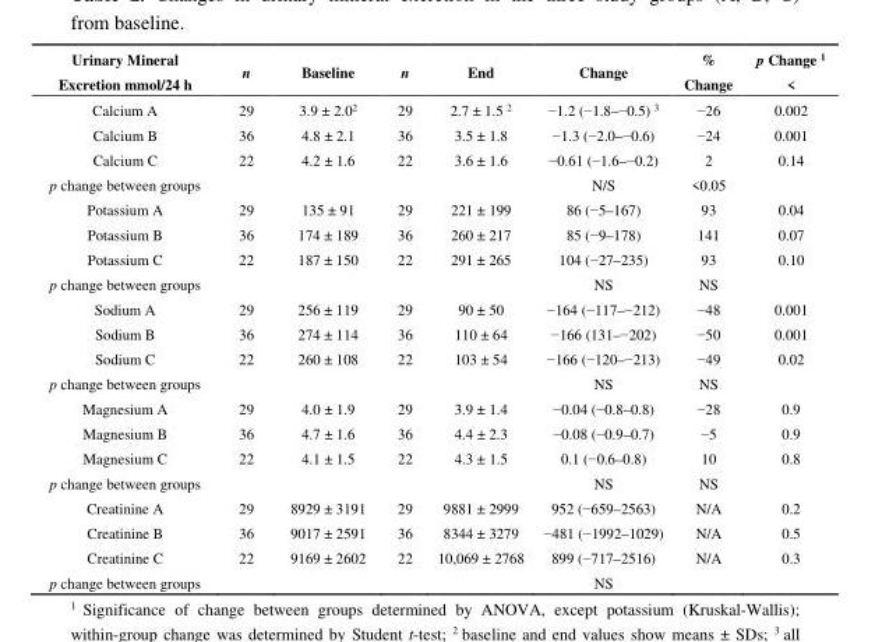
<table><thead><tr><td>Urinary Mineral Excretion mmol/24 h</td><td>n</td><td>Baseline</td><td>n</td><td>End</td><td>Change</td><td>% Change</td><td>p Change <sup>1</sup> &lt;</td></tr></thead><tbody><tr><td>Calcium A</td><td>29</td><td>3.9 ± 2.0<sup>2</sup></td><td>29</td><td>2.7 ± 1.5 <sup>2</sup></td><td>−1.2 (−1.8–−0.5) <sup>3</sup></td><td>−26</td><td>0.002</td></tr><tr><td>Calcium B</td><td>36</td><td>4.8 ± 2.1</td><td>36</td><td>3.5 ± 1.8</td><td>−1.3 (−2.0–−0.6)</td><td>−24</td><td>0.001</td></tr><tr><td>Calcium C</td><td>22</td><td>4.2 ± 1.6</td><td>22</td><td>3.6 ± 1.6</td><td>−0.61 (−1.6–−0.2)</td><td>2</td><td>0.14</td></tr><tr><td>p change between groups</td><td></td><td></td><td></td><td></td><td>N/S</td><td>&lt;0.05</td><td></td></tr><tr><td>Potassium A</td><td>29</td><td>135 ± 91</td><td>29</td><td>221 ± 199</td><td>86 (−5–167)</td><td>93</td><td>0.04</td></tr><tr><td>Potassium B</td><td>36</td><td>174 ± 189</td><td>36</td><td>260 ± 217</td><td>85 (−9–178)</td><td>141</td><td>0.07</td></tr><tr><td>Potassium C</td><td>22</td><td>187 ± 150</td><td>22</td><td>291 ± 265</td><td>104 (−27–235)</td><td>93</td><td>0.10</td></tr><tr><td>p change between groups</td><td></td><td></td><td></td><td></td><td>NS</td><td>NS</td><td></td></tr><tr><td>Sodium A</td><td>29</td><td>256 ± 119</td><td>29</td><td>90 ± 50</td><td>−164 (−117–−212)</td><td>−48</td><td>0.001</td></tr><tr><td>Sodium B</td><td>36</td><td>274 ± 114</td><td>36</td><td>110 ± 64</td><td>−166 (131–−202)</td><td>−50</td><td>0.001</td></tr><tr><td>Sodium C</td><td>22</td><td>260 ± 108</td><td>22</td><td>103 ± 54</td><td>−166 (−120–−213)</td><td>−49</td><td>0.02</td></tr><tr><td>p change between groups</td><td></td><td></td><td></td><td></td><td>NS</td><td>NS</td><td></td></tr><tr><td>Magnesium A</td><td>29</td><td>4.0 ± 1.9</td><td>29</td><td>3.9 ± 1.4</td><td>−0.04 (−0.8–0.8)</td><td>−28</td><td>0.9</td></tr><tr><td>Magnesium B</td><td>36</td><td>4.7 ± 1.6</td><td>36</td><td>4.4 ± 2.3</td><td>−0.08 (−0.9–0.7)</td><td>−5</td><td>0.9</td></tr><tr><td>Magnesium C</td><td>22</td><td>4.1 ± 1.5</td><td>22</td><td>4.3 ± 1.5</td><td>0.1 (−0.6–0.8)</td><td>10</td><td>0.8</td></tr><tr><td>p change between groups</td><td></td><td></td><td></td><td></td><td>NS</td><td>NS</td><td></td></tr><tr><td>Creatinine A</td><td>29</td><td>8929 ± 3191</td><td>29</td><td>9881 ± 2999</td><td>952 (−659–2563)</td><td>N/A</td><td>0.2</td></tr><tr><td>Creatinine B</td><td>36</td><td>9017 ± 2591</td><td>36</td><td>8344 ± 3279</td><td>−481 (−1992–1029)</td><td>N/A</td><td>0.5</td></tr><tr><td>Creatinine C</td><td>22</td><td>9169 ± 2602</td><td>22</td><td>10,069 ± 2768</td><td>899 (−717–2516)</td><td>N/A</td><td>0.3</td></tr><tr><td>p change between groups</td><td></td><td></td><td></td><td></td><td>NS</td><td></td><td></td></tr></tbody></table>